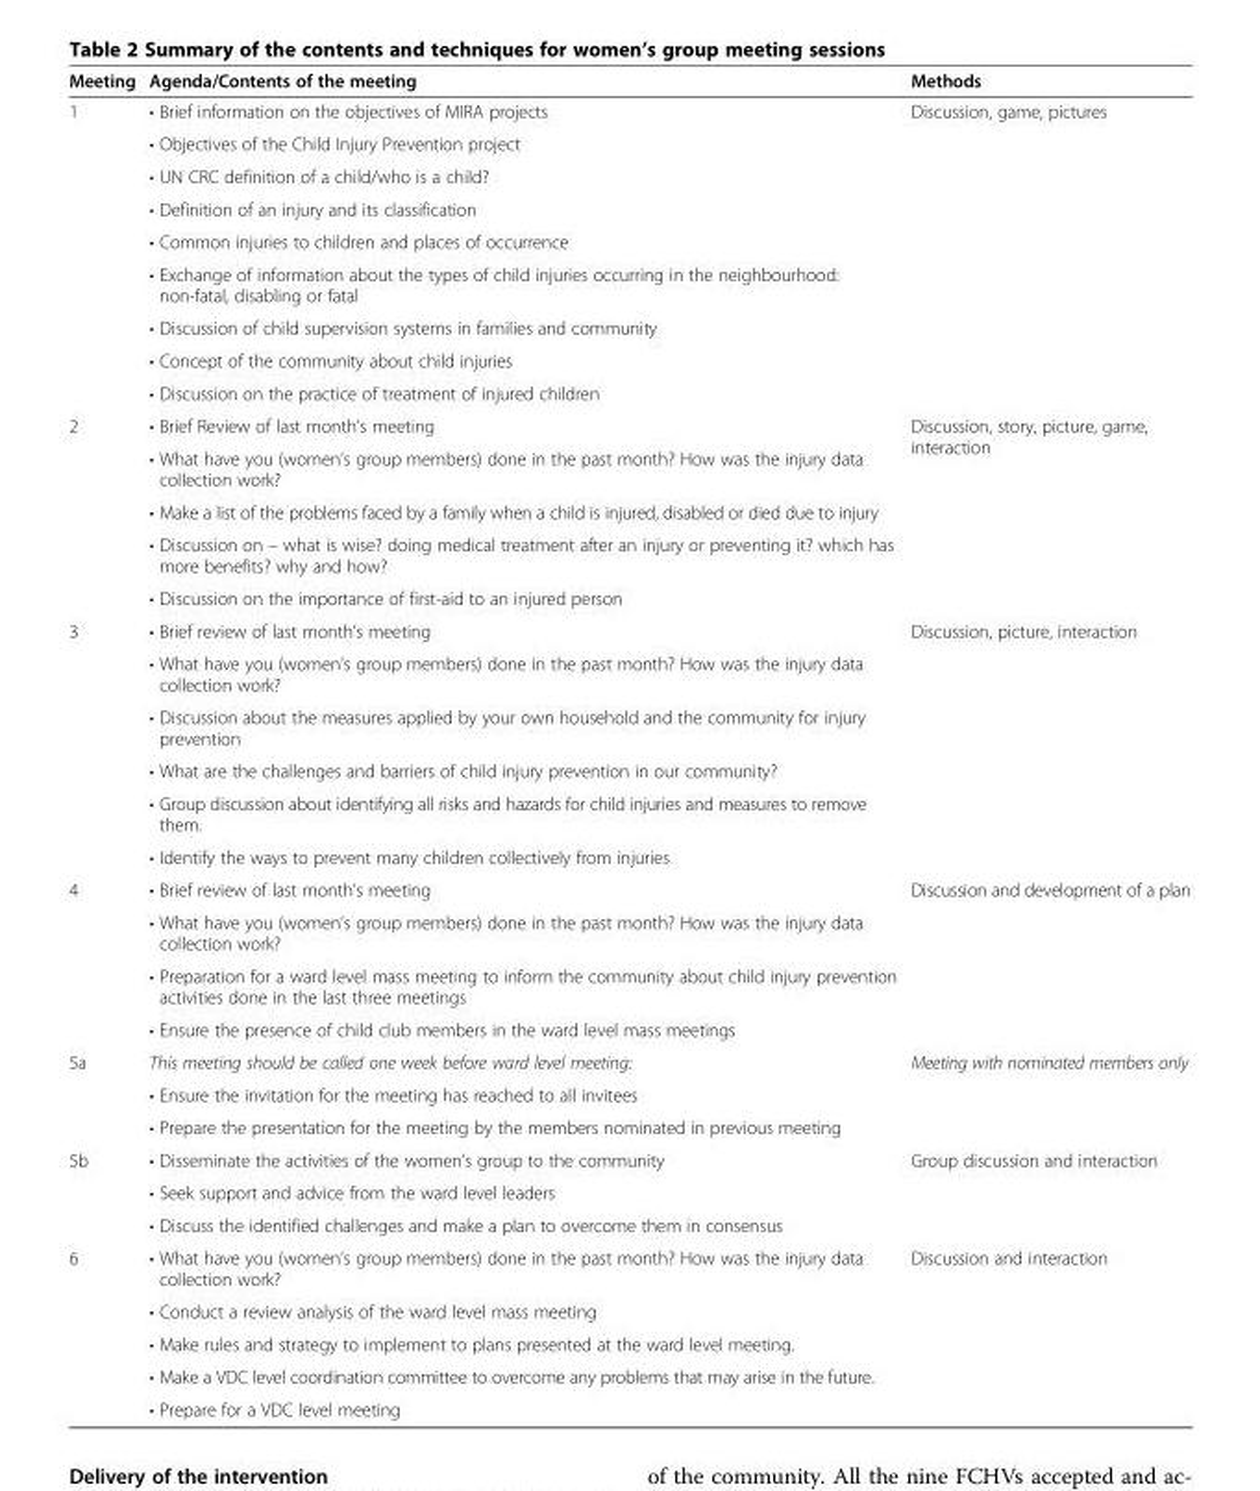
<table><thead><tr><td>Meeting</td><td>Agenda/Contents of the meeting</td><td>Methods</td></tr></thead><tbody><tr><td rowspan="9">1</td><td>• Brief information on the objectives of MIRA projects</td><td rowspan="9">Discussion, game, pictures</td></tr><tr><td>• Objectives of the Child Injury Prevention project</td></tr><tr><td>• UN CRC definition of a child/who is a child?</td></tr><tr><td>• Definition of an injury and its classification</td></tr><tr><td>• Common injuries to children and places of occurrence</td></tr><tr><td>• Exchange of information about the types of child injuries occurring in the neighbourhood: non-fatal, disabling or fatal</td></tr><tr><td>• Discussion of child supervision systems in families and community</td></tr><tr><td>• Concept of the community about child injuries</td></tr><tr><td>• Discussion on the practice of treatment of injured children</td></tr><tr><td rowspan="5">2</td><td>• Brief Review of last month’s meeting</td><td rowspan="5">Discussion, story, picture, game, interaction</td></tr><tr><td>• What have you (women’s group members) done in the past month? How was the injury data collection work?</td></tr><tr><td>• Make a list of the problems faced by a family when a child is injured, disabled or died due to injury</td></tr><tr><td>• Discussion on – what is wise? doing medical treatment after an injury or preventing it? which has more benefits? why and how?</td></tr><tr><td>• Discussion on the importance of first-aid to an injured person</td></tr><tr><td rowspan="6">3</td><td>• Brief review of last month’s meeting</td><td rowspan="6">Discussion, picture, interaction</td></tr><tr><td>• What have you (women’s group members) done in the past month? How was the injury data collection work?</td></tr><tr><td>• Discussion about the measures applied by your own household and the community for injury prevention</td></tr><tr><td>• What are the challenges and barriers of child injury prevention in our community?</td></tr><tr><td>• Group discussion about identifying all risks and hazards for child injuries and measures to remove them.</td></tr><tr><td>• Identify the ways to prevent many children collectively from injuries</td></tr><tr><td rowspan="4">4</td><td>• Brief review of last month’s meeting</td><td rowspan="4">Discussion and development of a plan</td></tr><tr><td>• What have you (women’s group members) done in the past month? How was the injury data collection work?</td></tr><tr><td>• Preparation for a ward level mass meeting to inform the community about child injury prevention activities done in the last three meetings</td></tr><tr><td>• Ensure the presence of child club members in the ward level mass meetings</td></tr><tr><td rowspan="3">5a</td><td>This meeting should be called one week before ward level meeting:</td><td rowspan="3">Meeting with nominated members only</td></tr><tr><td>• Ensure the invitation for the meeting has reached to all invitees</td></tr><tr><td>• Prepare the presentation for the meeting by the members nominated in previous meeting</td></tr><tr><td rowspan="3">5b</td><td>• Disseminate the activities of the women’s group to the community</td><td rowspan="3">Group discussion and interaction</td></tr><tr><td>• Seek support and advice from the ward level leaders</td></tr><tr><td>• Discuss the identified challenges and make a plan to overcome them in consensus</td></tr><tr><td rowspan="5">6</td><td>• What have you (women’s group members) done in the past month? How was the injury data collection work?</td><td rowspan="5">Discussion and interaction</td></tr><tr><td>• Conduct a review analysis of the ward level mass meeting</td></tr><tr><td>• Make rules and strategy to implement to plans presented at the ward level meeting.</td></tr><tr><td>• Make a VDC level coordination committee to overcome any problems that may arise in the future.</td></tr><tr><td>• Prepare for a VDC level meeting</td></tr></tbody></table>